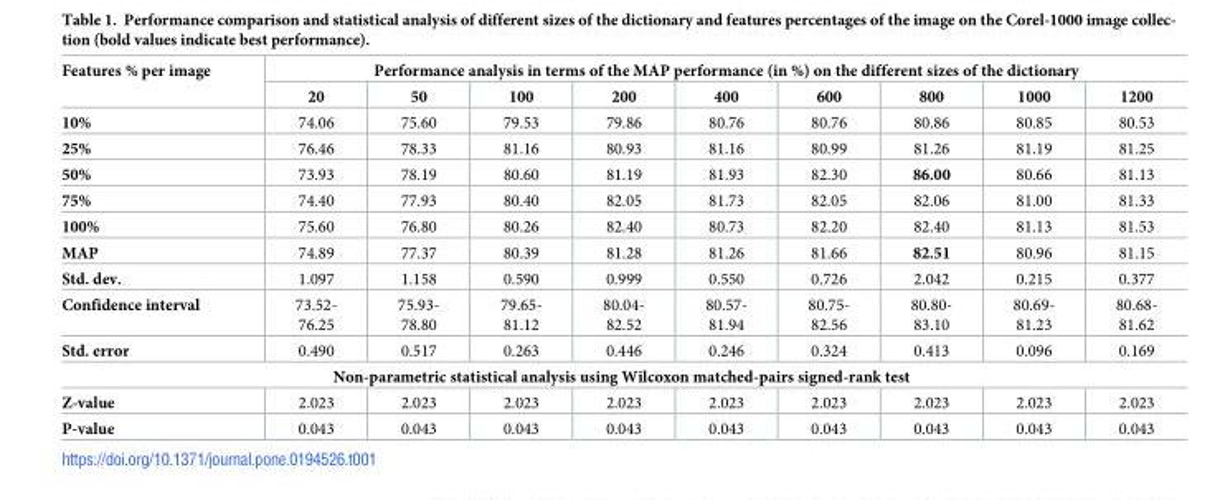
<table><thead><tr><td rowspan="2">Features % per image</td><td colspan="9">Performance analysis in terms of the MAP performance (in %) on the different sizes of the dictionary</td></tr><tr><td>20</td><td>50</td><td>100</td><td>200</td><td>400</td><td>600</td><td>800</td><td>1000</td><td>1200</td></tr></thead><tbody><tr><td>10%</td><td>74.06</td><td>75.60</td><td>79.53</td><td>79.86</td><td>80.76</td><td>80.76</td><td>80.86</td><td>80.85</td><td>80.53</td></tr><tr><td>25%</td><td>76.46</td><td>78.33</td><td>81.16</td><td>80.93</td><td>81.16</td><td>80.99</td><td>81.26</td><td>81.19</td><td>81.25</td></tr><tr><td>50%</td><td>73.93</td><td>78.19</td><td>80.60</td><td>81.19</td><td>81.93</td><td>82.30</td><td>86.00</td><td>80.66</td><td>81.13</td></tr><tr><td>75%</td><td>74.40</td><td>77.93</td><td>80.40</td><td>82.05</td><td>81.73</td><td>82.05</td><td>82.06</td><td>81.00</td><td>81.33</td></tr><tr><td>100%</td><td>75.60</td><td>76.80</td><td>80.26</td><td>82.40</td><td>80.73</td><td>82.20</td><td>82.40</td><td>81.13</td><td>81.53</td></tr><tr><td>MAP</td><td>74.89</td><td>77.37</td><td>80.39</td><td>81.28</td><td>81.26</td><td>81.66</td><td>82.51</td><td>80.96</td><td>81.15</td></tr><tr><td>Std. dev.</td><td>1.097</td><td>1.158</td><td>0.590</td><td>0.999</td><td>0.550</td><td>0.726</td><td>2.042</td><td>0.215</td><td>0.377</td></tr><tr><td>Confidence interval</td><td>73.52- 76.25</td><td>75.93- 78.80</td><td>79.65- 81.12</td><td>80.04- 82.52</td><td>80.57- 81.94</td><td>80.75- 82.56</td><td>80.80- 83.10</td><td>80.69- 81.23</td><td>80.68- 81.62</td></tr><tr><td>Std. error</td><td>0.490</td><td>0.517</td><td>0.263</td><td>0.446</td><td>0.246</td><td>0.324</td><td>0.413</td><td>0.096</td><td>0.169</td></tr><tr><td colspan="10">Non-parametric statistical analysis using Wilcoxon matched-pairs signed-rank test</td></tr><tr><td>Z-value</td><td>2.023</td><td>2.023</td><td>2.023</td><td>2.023</td><td>2.023</td><td>2.023</td><td>2.023</td><td>2.023</td><td>2.023</td></tr><tr><td>P-value</td><td>0.043</td><td>0.043</td><td>0.043</td><td>0.043</td><td>0.043</td><td>0.043</td><td>0.043</td><td>0.043</td><td>0.043</td></tr></tbody></table>